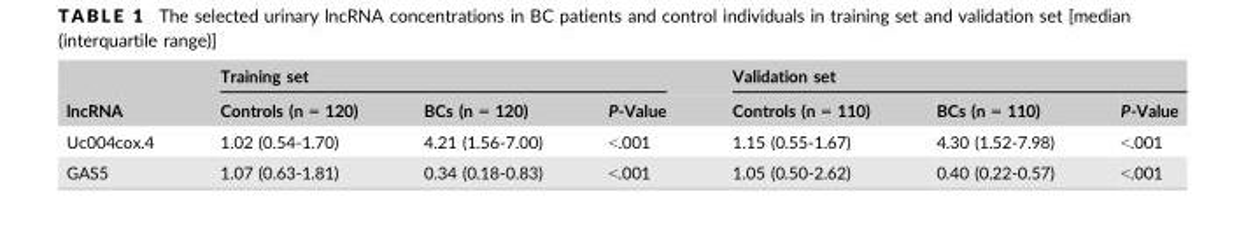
<table><thead><tr><td rowspan="2">lncRNA</td><td colspan="3">Training set</td><td colspan="3">Validation set</td></tr><tr><td>Controls (n = 120)</td><td>BCs (n = 120)</td><td>P-Value</td><td>Controls (n = 110)</td><td>BCs (n = 110)</td><td>P-Value</td></tr></thead><tbody><tr><td>Uc004cox.4</td><td>1.02 (0.54-1.70)</td><td>4.21 (1.56-7.00)</td><td>&lt;.001</td><td>1.15 (0.55-1.67)</td><td>4.30 (1.52-7.98)</td><td>&lt;.001</td></tr><tr><td>GAS5</td><td>1.07 (0.63-1.81)</td><td>0.34 (0.18-0.83)</td><td>&lt;.001</td><td>1.05 (0.50-2.62)</td><td>0.40 (0.22-0.57)</td><td>&lt;.001</td></tr></tbody></table>